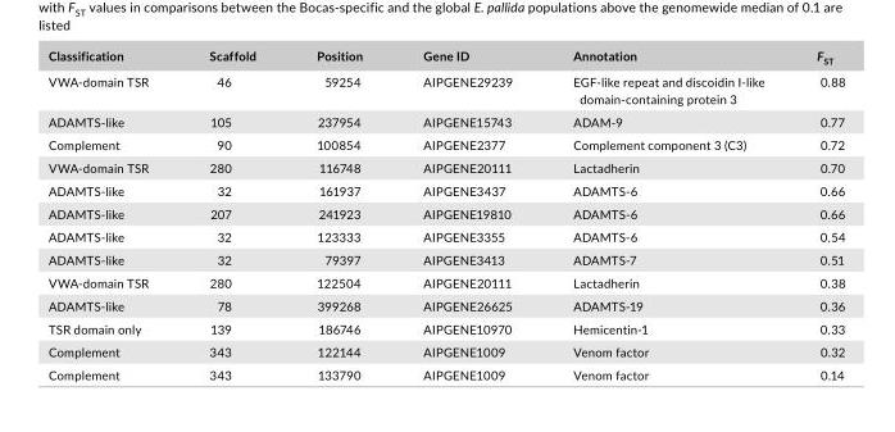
<table><thead><tr><td>Classification</td><td>Scaffold</td><td>Position</td><td>Gene ID</td><td>Annotation</td><td>F<sub>ST</sub></td></tr></thead><tbody><tr><td>VWA- domain TSR</td><td>46</td><td>59254</td><td>AIPGENE29239</td><td>EGF- like repeat and discoidin I- like domain- containing protein 3</td><td>0.88</td></tr><tr><td>ADAMTS- like</td><td>105</td><td>237954</td><td>AIPGENE15743</td><td>ADAM- 9</td><td>0.77</td></tr><tr><td>Complement</td><td>90</td><td>100854</td><td>AIPGENE2377</td><td>Complement component 3 (C3)</td><td>0.72</td></tr><tr><td>VWA- domain TSR</td><td>280</td><td>116748</td><td>AIPGENE20111</td><td>Lactadherin</td><td>0.70</td></tr><tr><td>ADAMTS- like</td><td>32</td><td>161937</td><td>AIPGENE3437</td><td>ADAMTS- 6</td><td>0.66</td></tr><tr><td>ADAMTS- like</td><td>207</td><td>241923</td><td>AIPGENE19810</td><td>ADAMTS- 6</td><td>0.66</td></tr><tr><td>ADAMTS- like</td><td>32</td><td>123333</td><td>AIPGENE3355</td><td>ADAMTS- 6</td><td>0.54</td></tr><tr><td>ADAMTS- like</td><td>32</td><td>79397</td><td>AIPGENE3413</td><td>ADAMTS- 7</td><td>0.51</td></tr><tr><td>VWA- domain TSR</td><td>280</td><td>122504</td><td>AIPGENE20111</td><td>Lactadherin</td><td>0.38</td></tr><tr><td>ADAMTS- like</td><td>78</td><td>399268</td><td>AIPGENE26625</td><td>ADAMTS- 19</td><td>0.36</td></tr><tr><td>TSR domain only</td><td>139</td><td>186746</td><td>AIPGENE10970</td><td>Hemicentin- 1</td><td>0.33</td></tr><tr><td>Complement</td><td>343</td><td>122144</td><td>AIPGENE1009</td><td>Venom factor</td><td>0.32</td></tr><tr><td>Complement</td><td>343</td><td>133790</td><td>AIPGENE1009</td><td>Venom factor</td><td>0.14</td></tr></tbody></table>